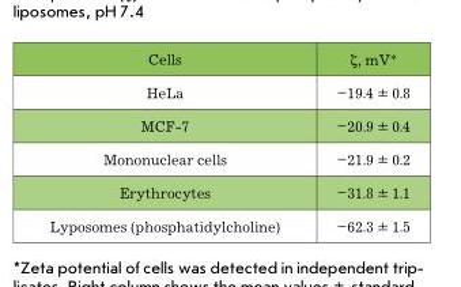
<table><thead><tr><td>cells</td><td>ζ, mV*</td></tr></thead><tbody><tr><td>HeLa</td><td>–19.4 ± 0.8</td></tr><tr><td>McF-7</td><td>–20.9 ± 0.4</td></tr><tr><td>Mononuclear cells</td><td>–21.9 ± 0.2</td></tr><tr><td>erythrocytes</td><td>–31.8 ± 1.1</td></tr><tr><td>Lyposomes (phosphatidylcholine)</td><td>–62.3 ± 1.5</td></tr></tbody></table>